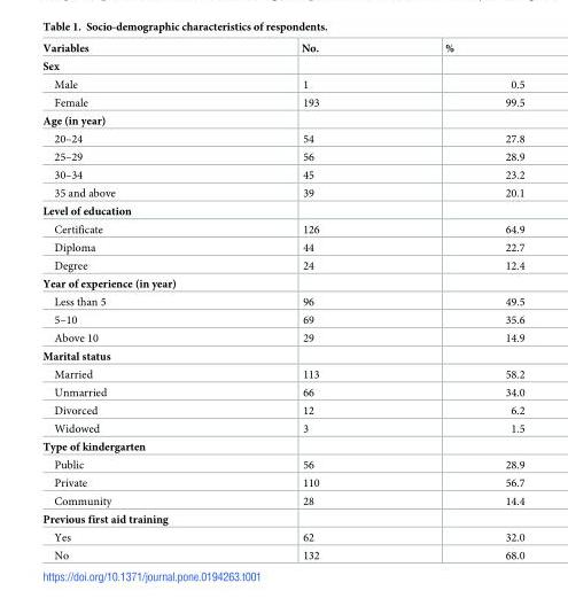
<table><thead><tr><td>Variables</td><td>No.</td><td>%</td></tr></thead><tbody><tr><td colspan="3">Sex</td></tr><tr><td>Male</td><td>1</td><td>0.5</td></tr><tr><td>Female</td><td>193</td><td>99.5</td></tr><tr><td colspan="3">Age (in year)</td></tr><tr><td>20–24</td><td>54</td><td>27.8</td></tr><tr><td>25–29</td><td>56</td><td>28.9</td></tr><tr><td>30–34</td><td>45</td><td>23.2</td></tr><tr><td>35 and above</td><td>39</td><td>20.1</td></tr><tr><td colspan="3">Level of education</td></tr><tr><td>Certificate</td><td>126</td><td>64.9</td></tr><tr><td>Diploma</td><td>44</td><td>22.7</td></tr><tr><td>Degree</td><td>24</td><td>12.4</td></tr><tr><td colspan="3">Year of experience (in year)</td></tr><tr><td>Less than 5</td><td>96</td><td>49.5</td></tr><tr><td>5–10</td><td>69</td><td>35.6</td></tr><tr><td>Above 10</td><td>29</td><td>14.9</td></tr><tr><td colspan="3">Marital status</td></tr><tr><td>Married</td><td>113</td><td>58.2</td></tr><tr><td>Unmarried</td><td>66</td><td>34.0</td></tr><tr><td>Divorced</td><td>12</td><td>6.2</td></tr><tr><td>Widowed</td><td>3</td><td>1.5</td></tr><tr><td colspan="3">Type of kindergarten</td></tr><tr><td>Public</td><td>56</td><td>28.9</td></tr><tr><td>Private</td><td>110</td><td>56.7</td></tr><tr><td>Community</td><td>28</td><td>14.4</td></tr><tr><td colspan="3">Previous first aid training</td></tr><tr><td>Yes</td><td>62</td><td>32.0</td></tr><tr><td>No</td><td>132</td><td>68.0</td></tr></tbody></table>